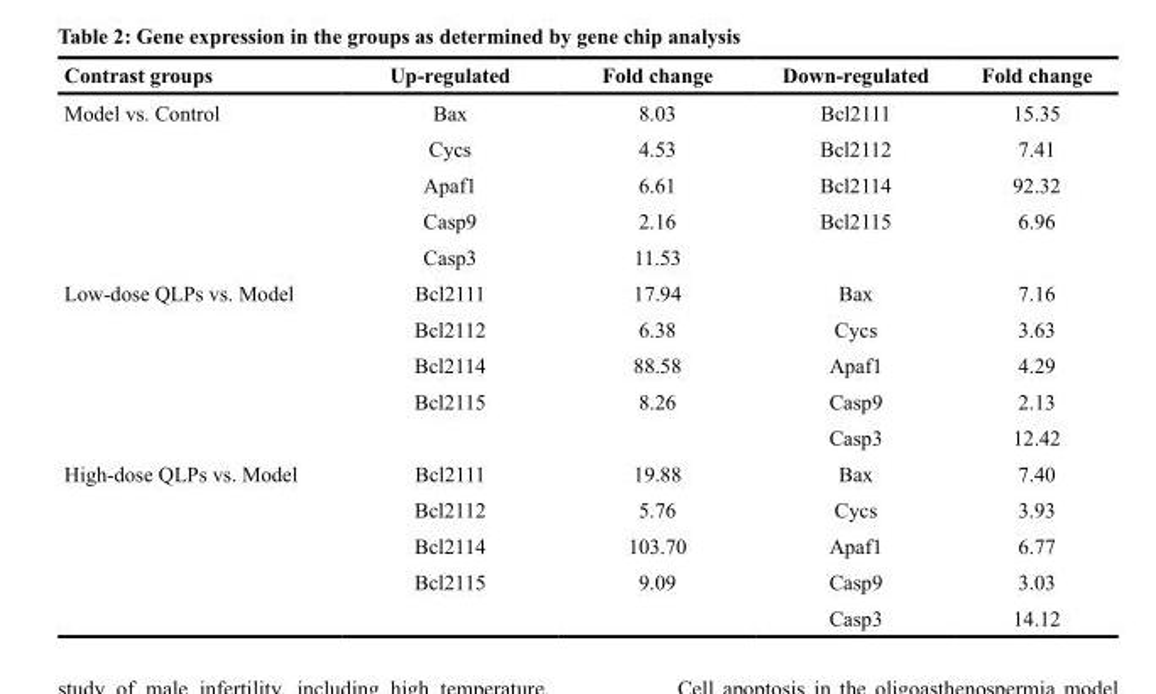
<table><thead><tr><td>Contrast groups</td><td>Up-regulated</td><td>Fold change</td><td>Down-regulated</td><td>Fold change</td></tr></thead><tbody><tr><td rowspan="5">Model vs. Control</td><td>Bax</td><td>8.03</td><td>Bcl2111</td><td>15.35</td></tr><tr><td>Cycs</td><td>4.53</td><td>Bcl2112</td><td>7.41</td></tr><tr><td>Apaf1</td><td>6.61</td><td>Bcl2114</td><td>92.32</td></tr><tr><td>Casp9</td><td>2.16</td><td>Bcl2115</td><td>6.96</td></tr><tr><td>Casp3</td><td>11.53</td><td></td><td></td></tr><tr><td rowspan="5">Low-dose QLPs vs. Model</td><td>Bcl2111</td><td>17.94</td><td>Bax</td><td>7.16</td></tr><tr><td>Bcl2112</td><td>6.38</td><td>Cycs</td><td>3.63</td></tr><tr><td>Bcl2114</td><td>88.58</td><td>Apaf1</td><td>4.29</td></tr><tr><td>Bcl2115</td><td>8.26</td><td>Casp9</td><td>2.13</td></tr><tr><td></td><td></td><td>Casp3</td><td>12.42</td></tr><tr><td rowspan="5">High-dose QLPs vs. Model</td><td>Bcl2111</td><td>19.88</td><td>Bax</td><td>7.40</td></tr><tr><td>Bcl2112</td><td>5.76</td><td>Cycs</td><td>3.93</td></tr><tr><td>Bcl2114</td><td>103.70</td><td>Apaf1</td><td>6.77</td></tr><tr><td>Bcl2115</td><td>9.09</td><td>Casp9</td><td>3.03</td></tr><tr><td></td><td></td><td>Casp3</td><td>14.12</td></tr></tbody></table>